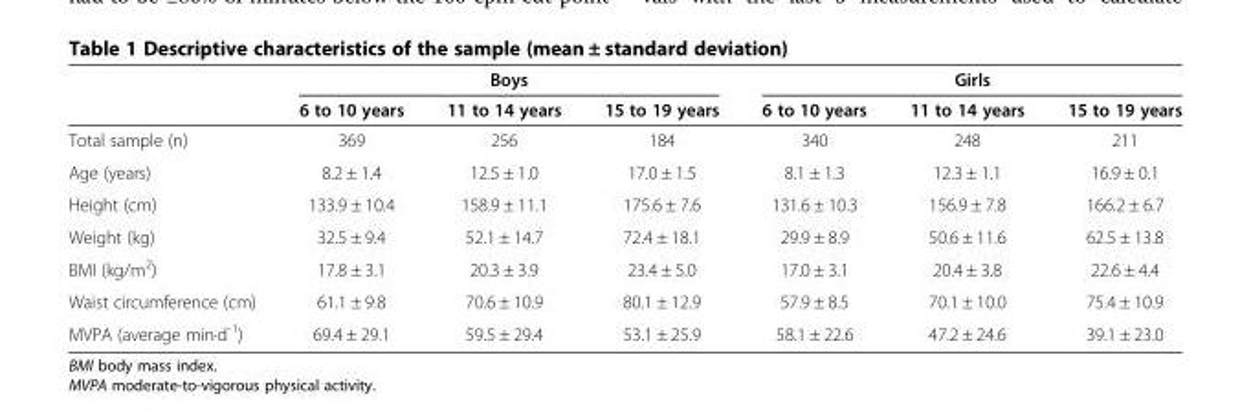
<table><thead><tr><td rowspan="2"></td><td colspan="3">Boys</td><td colspan="3">Girls</td></tr><tr><td>6 to 10 years</td><td>11 to 14 years</td><td>15 to 19 years</td><td>6 to 10 years</td><td>11 to 14 years</td><td>15 to 19 years</td></tr></thead><tbody><tr><td>Total sample (n)</td><td>369</td><td>256</td><td>184</td><td>340</td><td>248</td><td>211</td></tr><tr><td>Age (years)</td><td>8.2 ± 1.4</td><td>12.5 ± 1.0</td><td>17.0 ± 1.5</td><td>8.1 ± 1.3</td><td>12.3 ± 1.1</td><td>16.9 ± 0.1</td></tr><tr><td>Height (cm)</td><td>133.9 ± 10.4</td><td>158.9 ± 11.1</td><td>175.6 ± 7.6</td><td>131.6 ± 10.3</td><td>156.9 ± 7.8</td><td>166.2 ± 6.7</td></tr><tr><td>Weight (kg)</td><td>32.5 ± 9.4</td><td>52.1 ± 14.7</td><td>72.4 ± 18.1</td><td>29.9 ± 8.9</td><td>50.6 ± 11.6</td><td>62.5 ± 13.8</td></tr><tr><td>BMI (kg/m<sup>2</sup>)</td><td>17.8 ± 3.1</td><td>20.3 ± 3.9</td><td>23.4 ± 5.0</td><td>17.0 ± 3.1</td><td>20.4 ± 3.8</td><td>22.6 ± 4.4</td></tr><tr><td>Waist circumference (cm)</td><td>61.1 ± 9.8</td><td>70.6 ± 10.9</td><td>80.1 ± 12.9</td><td>57.9 ± 8.5</td><td>70.1 ± 10.0</td><td>75.4 ± 10.9</td></tr><tr><td>MVPA (average min·d<sup>-1</sup>)</td><td>69.4 ± 29.1</td><td>59.5 ± 29.4</td><td>53.1 ± 25.9</td><td>58.1 ± 22.6</td><td>47.2 ± 24.6</td><td>39.1 ± 23.0</td></tr></tbody></table>